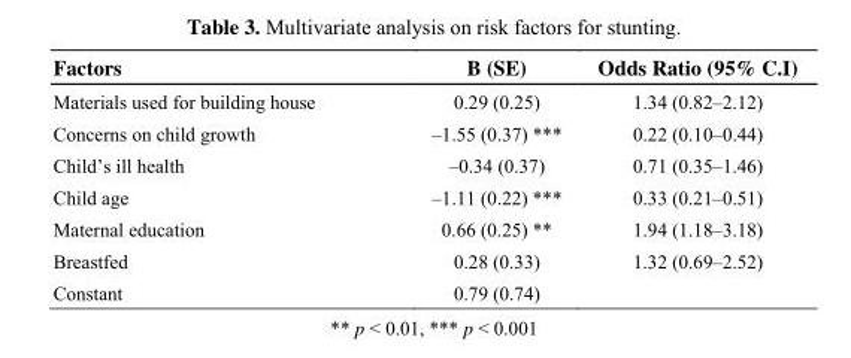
<table><thead><tr><td>Factors</td><td>B (SE)</td><td>Odds Ratio (95% C.I)</td></tr></thead><tbody><tr><td>Materials used for building house</td><td>0.29 (0.25)</td><td>1.34 (0.82–2.12)</td></tr><tr><td>Concerns on child growth</td><td>–1.55 (0.37) ***</td><td>0.22 (0.10–0.44)</td></tr><tr><td>Child’s ill health</td><td>–0.34 (0.37)</td><td>0.71 (0.35–1.46)</td></tr><tr><td>Child age</td><td>–1.11 (0.22) ***</td><td>0.33 (0.21–0.51)</td></tr><tr><td>Maternal education</td><td>0.66 (0.25) **</td><td>1.94 (1.18–3.18)</td></tr><tr><td>Breastfed</td><td>0.28 (0.33)</td><td>1.32 (0.69–2.52)</td></tr><tr><td>Constant</td><td>0.79 (0.74)</td><td></td></tr></tbody></table>